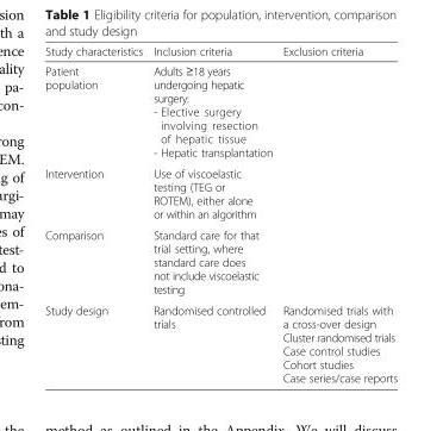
<table><thead><tr><td>Study characteristics</td><td>Inclusion criteria</td><td>Exclusion criteria</td></tr></thead><tbody><tr><td>Patient population</td><td>Adults ≥18 years undergoing hepatic surgery: - Elective surgery involving resection of hepatic tissue - Hepatic transplantation</td><td></td></tr><tr><td>Intervention</td><td>Use of viscoelastic testing (TEG or ROTEM), either alone or within an algorithm</td><td></td></tr><tr><td>Comparison</td><td>Standard care for that trial setting, where standard care does not include viscoelastic testing</td><td></td></tr><tr><td>Study design</td><td>Randomised controlled trials</td><td>Randomised trials with a cross-over design Cluster randomised trials Case control studies Cohort studies Case series/case reports</td></tr></tbody></table>